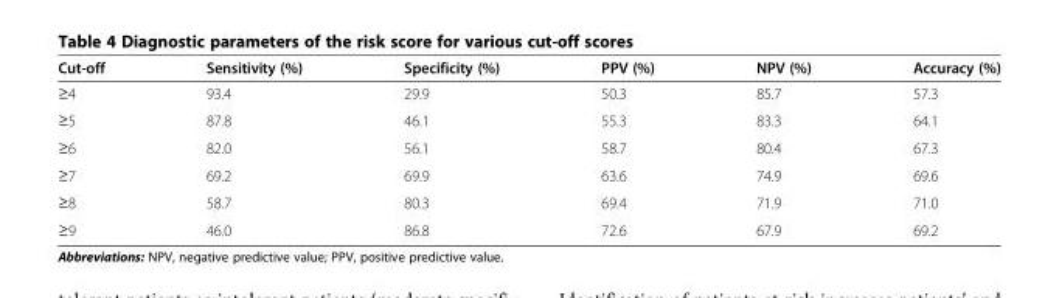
<table><thead><tr><td>Cut-off</td><td>Sensitivity (%)</td><td>Specificity (%)</td><td>PPV (%)</td><td>NPV (%)</td><td>Accuracy (%)</td></tr></thead><tbody><tr><td>≥4</td><td>93.4</td><td>29.9</td><td>50.3</td><td>85.7</td><td>57.3</td></tr><tr><td>≥5</td><td>87.8</td><td>46.1</td><td>55.3</td><td>83.3</td><td>64.1</td></tr><tr><td>≥6</td><td>82.0</td><td>56.1</td><td>58.7</td><td>80.4</td><td>67.3</td></tr><tr><td>≥7</td><td>69.2</td><td>69.9</td><td>63.6</td><td>74.9</td><td>69.6</td></tr><tr><td>≥8</td><td>58.7</td><td>80.3</td><td>69.4</td><td>71.9</td><td>71.0</td></tr><tr><td>≥9</td><td>46.0</td><td>86.8</td><td>72.6</td><td>67.9</td><td>69.2</td></tr></tbody></table>